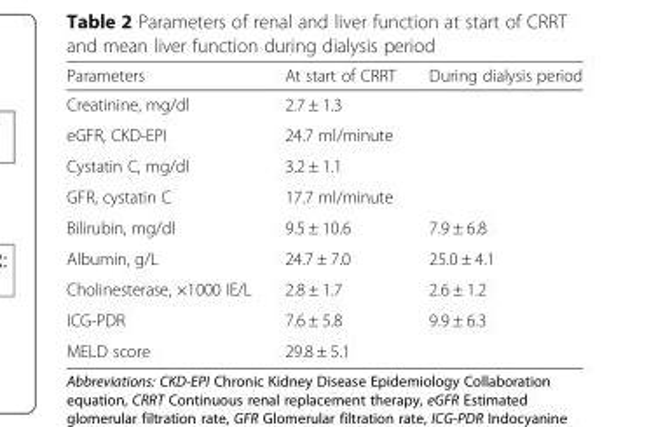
<table><thead><tr><td>Parameters</td><td>At start of CRRT</td><td>During dialysis period</td></tr></thead><tbody><tr><td>Creatinine, mg/dl</td><td>2.7 ± 1.3</td><td></td></tr><tr><td>eGFR, CKD-EPI</td><td>24.7 ml/minute</td><td></td></tr><tr><td>Cystatin C, mg/dl</td><td>3.2 ± 1.1</td><td></td></tr><tr><td>GFR, cystatin C</td><td>17.7 ml/minute</td><td></td></tr><tr><td>Bilirubin, mg/dl</td><td>9.5 ± 10.6</td><td>7.9 ± 6.8</td></tr><tr><td>Albumin, g/L</td><td>24.7 ± 7.0</td><td>25.0 ± 4.1</td></tr><tr><td>Cholinesterase, ×1000 IE/L</td><td>2.8 ± 1.7</td><td>2.6 ± 1.2</td></tr><tr><td>ICG-PDR</td><td>7.6 ± 5.8</td><td>9.9 ± 6.3</td></tr><tr><td>MELD score</td><td>29.8 ± 5.1</td><td></td></tr></tbody></table>